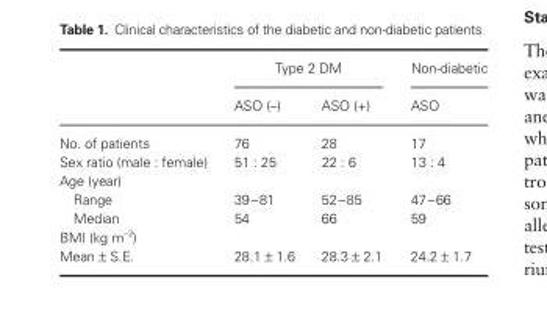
<table><thead><tr><td rowspan="2"></td><td colspan="2">Type 2 DM</td><td rowspan="2">Non-diabetic ASO</td></tr><tr><td>ASO (–)</td><td>ASO (+)</td></tr></thead><tbody><tr><td>No. of patients</td><td>76</td><td>28</td><td>17</td></tr><tr><td>Sex ratio (male : female)</td><td>51 : 25</td><td>22 : 6</td><td>13 : 4</td></tr><tr><td colspan="4">Age (year)</td></tr><tr><td>Range</td><td>39–81</td><td>52–85</td><td>47–66</td></tr><tr><td>Median</td><td>54</td><td>66</td><td>59</td></tr><tr><td colspan="4">BMI (kg m<sup>−2</sup>)</td></tr><tr><td>Mean ± S.E.</td><td>28.1 ± 1.6</td><td>28.3 ± 2.1</td><td>24.2 ± 1.7</td></tr></tbody></table>